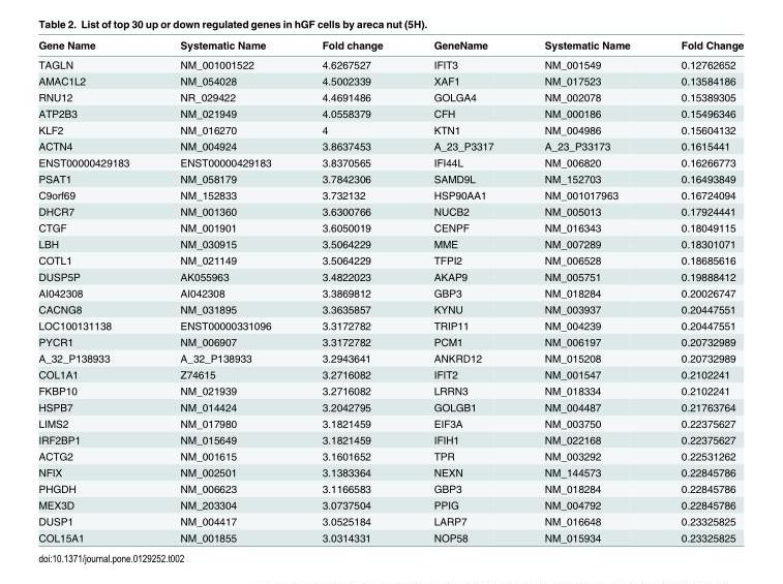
<table><thead><tr><td>Gene Name</td><td>Systematic Name</td><td>Fold change</td><td>GeneName</td><td>Systematic Name</td><td>Fold Change</td></tr></thead><tbody><tr><td>TAGLN</td><td>NM_001001522</td><td>4.6267527</td><td>IFIT3</td><td>NM_001549</td><td>0.12762652</td></tr><tr><td>AMAC1L2</td><td>NM_054028</td><td>4.5002339</td><td>XAF1</td><td>NM_017523</td><td>0.13584186</td></tr><tr><td>RNU12</td><td>NR_029422</td><td>4.4691486</td><td>GOLGA4</td><td>NM_002078</td><td>0.15389305</td></tr><tr><td>ATP2B3</td><td>NM_021949</td><td>4.0558379</td><td>CFH</td><td>NM_000186</td><td>0.15496346</td></tr><tr><td>KLF2</td><td>NM_016270</td><td>4</td><td>KTN1</td><td>NM_004986</td><td>0.15604132</td></tr><tr><td>ACTN4</td><td>NM_004924</td><td>3.8637453</td><td>A_23_P3317</td><td>A_23_P33173</td><td>0.1615441</td></tr><tr><td>ENST00000429183</td><td>ENST00000429183</td><td>3.8370565</td><td>IFI44L</td><td>NM_006820</td><td>0.16266773</td></tr><tr><td>PSAT1</td><td>NM_058179</td><td>3.7842306</td><td>SAMD9L</td><td>NM_152703</td><td>0.16493849</td></tr><tr><td>C9orf69</td><td>NM_152833</td><td>3.732132</td><td>HSP90AA1</td><td>NM_001017963</td><td>0.16724094</td></tr><tr><td>DHCR7</td><td>NM_001360</td><td>3.6300766</td><td>NUCB2</td><td>NM_005013</td><td>0.17924441</td></tr><tr><td>CTGF</td><td>NM_001901</td><td>3.6050019</td><td>CENPF</td><td>NM_016343</td><td>0.18049115</td></tr><tr><td>LBH</td><td>NM_030915</td><td>3.5064229</td><td>MME</td><td>NM_007289</td><td>0.18301071</td></tr><tr><td>COTL1</td><td>NM_021149</td><td>3.5064229</td><td>TFPI2</td><td>NM_006528</td><td>0.18685616</td></tr><tr><td>DUSP5P</td><td>AK055963</td><td>3.4822023</td><td>AKAP9</td><td>NM_005751</td><td>0.19888412</td></tr><tr><td>AI042308</td><td>AI042308</td><td>3.3869812</td><td>GBP3</td><td>NM_018284</td><td>0.20026747</td></tr><tr><td>CACNG8</td><td>NM_031895</td><td>3.3635857</td><td>KYNU</td><td>NM_003937</td><td>0.20447551</td></tr><tr><td>LOC100131138</td><td>ENST00000331096</td><td>3.3172782</td><td>TRIP11</td><td>NM_004239</td><td>0.20447551</td></tr><tr><td>PYCR1</td><td>NM_006907</td><td>3.3172782</td><td>PCM1</td><td>NM_006197</td><td>0.20732989</td></tr><tr><td>A_32_P138933</td><td>A_32_P138933</td><td>3.2943641</td><td>ANKRD12</td><td>NM_015208</td><td>0.20732989</td></tr><tr><td>COL1A1</td><td>Z74615</td><td>3.2716082</td><td>IFIT2</td><td>NM_001547</td><td>0.2102241</td></tr><tr><td>FKBP10</td><td>NM_021939</td><td>3.2716082</td><td>LRRN3</td><td>NM_018334</td><td>0.2102241</td></tr><tr><td>HSPB7</td><td>NM_014424</td><td>3.2042795</td><td>GOLGB1</td><td>NM_004487</td><td>0.21763764</td></tr><tr><td>LIMS2</td><td>NM_017980</td><td>3.1821459</td><td>EIF3A</td><td>NM_003750</td><td>0.22375627</td></tr><tr><td>IRF2BP1</td><td>NM_015649</td><td>3.1821459</td><td>IFIH1</td><td>NM_022168</td><td>0.22375627</td></tr><tr><td>ACTG2</td><td>NM_001615</td><td>3.1601652</td><td>TPR</td><td>NM_003292</td><td>0.22531262</td></tr><tr><td>NFIX</td><td>NM_002501</td><td>3.1383364</td><td>NEXN</td><td>NM_144573</td><td>0.22845786</td></tr><tr><td>PHGDH</td><td>NM_006623</td><td>3.1166583</td><td>GBP3</td><td>NM_018284</td><td>0.22845786</td></tr><tr><td>MEX3D</td><td>NM_203304</td><td>3.0737504</td><td>PPIG</td><td>NM_004792</td><td>0.22845786</td></tr><tr><td>DUSP1</td><td>NM_004417</td><td>3.0525184</td><td>LARP7</td><td>NM_016648</td><td>0.23325825</td></tr><tr><td>COL15A1</td><td>NM_001855</td><td>3.0314331</td><td>NOP58</td><td>NM_015934</td><td>0.23325825</td></tr></tbody></table>